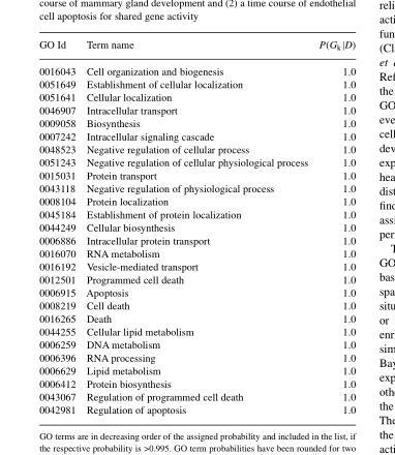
<table><thead><tr><td>GO Id</td><td>Term name</td><td>P(G<sub>k</sub>|D)</td></tr></thead><tbody><tr><td>0016043</td><td>Cell organization and biogenesis</td><td>1.0</td></tr><tr><td>0051649</td><td>Establishment of cellular localization</td><td>1.0</td></tr><tr><td>0051641</td><td>Cellular localization</td><td>1.0</td></tr><tr><td>0046907</td><td>Intracellular transport</td><td>1.0</td></tr><tr><td>0009058</td><td>Biosynthesis</td><td>1.0</td></tr><tr><td>0007242</td><td>Intracellular signaling cascade</td><td>1.0</td></tr><tr><td>0048523</td><td>Negative regulation of cellular process</td><td>1.0</td></tr><tr><td>0051243</td><td>Negative regulation of cellular physiological process</td><td>1.0</td></tr><tr><td>0015031</td><td>Protein transport</td><td>1.0</td></tr><tr><td>0043118</td><td>Negative regulation of physiological process</td><td>1.0</td></tr><tr><td>0008104</td><td>Protein localization</td><td>1.0</td></tr><tr><td>0045184</td><td>Establishment of protein localization</td><td>1.0</td></tr><tr><td>0044249</td><td>Cellular biosynthesis</td><td>1.0</td></tr><tr><td>0006886</td><td>Intracellular protein transport</td><td>1.0</td></tr><tr><td>0016070</td><td>RNA metabolism</td><td>1.0</td></tr><tr><td>0016192</td><td>Vesicle-mediated transport</td><td>1.0</td></tr><tr><td>0012501</td><td>Programmed cell death</td><td>1.0</td></tr><tr><td>0006915</td><td>Apoptosis</td><td>1.0</td></tr><tr><td>0008219</td><td>Cell death</td><td>1.0</td></tr><tr><td>0016265</td><td>Death</td><td>1.0</td></tr><tr><td>0044255</td><td>Cellular lipid metabolism</td><td>1.0</td></tr><tr><td>0006259</td><td>DNA metabolism</td><td>1.0</td></tr><tr><td>0006396</td><td>RNA processing</td><td>1.0</td></tr><tr><td>0006629</td><td>Lipid metabolism</td><td>1.0</td></tr><tr><td>0006412</td><td>Protein biosynthesis</td><td>1.0</td></tr><tr><td>0043067</td><td>Regulation of programmed cell death</td><td>1.0</td></tr><tr><td>0042981</td><td>Regulation of apoptosis</td><td>1.0</td></tr></tbody></table>